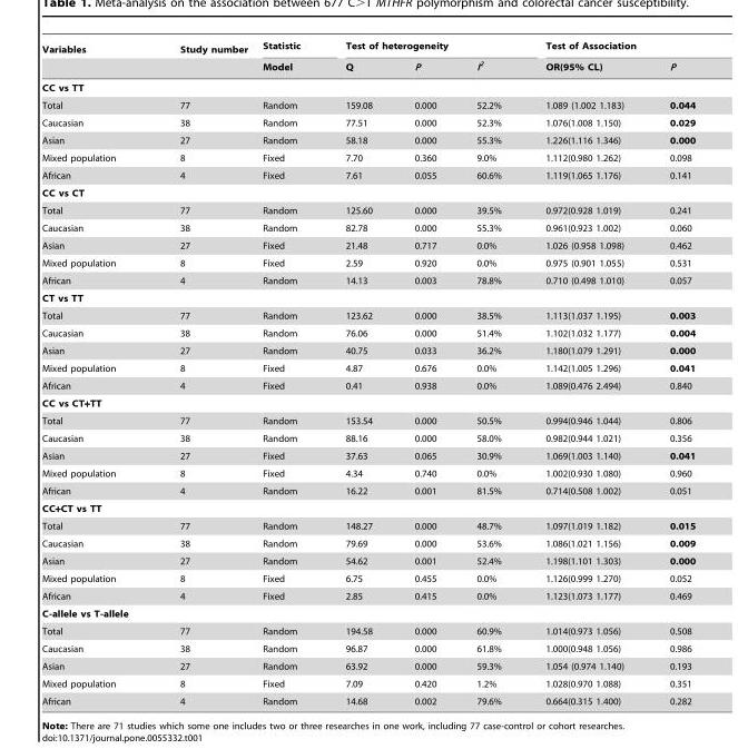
<table><thead><tr><td rowspan="2">Variables</td><td rowspan="2">Study number</td><td rowspan="2">Statistic Model</td><td colspan="3">Test of heterogeneity</td><td colspan="2">Test of Association</td></tr><tr><td>Q</td><td>P</td><td>I<sup>2</sup></td><td>OR(95% CL)</td><td>P</td></tr></thead><tbody><tr><td colspan="8">CC vs TT</td></tr><tr><td>Total</td><td>77</td><td>Random</td><td>159.08</td><td>0.000</td><td>52.2%</td><td>1.089 (1.002 1.183)</td><td>0.044</td></tr><tr><td>Caucasian</td><td>38</td><td>Random</td><td>77.51</td><td>0.000</td><td>52.3%</td><td>1.076(1.008 1.150)</td><td>0.029</td></tr><tr><td>Asian</td><td>27</td><td>Random</td><td>58.18</td><td>0.000</td><td>55.3%</td><td>1.226(1.116 1.346)</td><td>0.000</td></tr><tr><td>Mixed population</td><td>8</td><td>Fixed</td><td>7.70</td><td>0.360</td><td>9.0%</td><td>1.112(0.980 1.262)</td><td>0.098</td></tr><tr><td>African</td><td>4</td><td>Fixed</td><td>7.61</td><td>0.055</td><td>60.6%</td><td>1.119(1.065 1.176)</td><td>0.141</td></tr><tr><td colspan="8">CC vs CT</td></tr><tr><td>Total</td><td>77</td><td>Random</td><td>125.60</td><td>0.000</td><td>39.5%</td><td>0.972(0.928 1.019)</td><td>0.241</td></tr><tr><td>Caucasian</td><td>38</td><td>Random</td><td>82.78</td><td>0.000</td><td>55.3%</td><td>0.961(0.923 1.002)</td><td>0.060</td></tr><tr><td>Asian</td><td>27</td><td>Fixed</td><td>21.48</td><td>0.717</td><td>0.0%</td><td>1.026 (0.958 1.098)</td><td>0.462</td></tr><tr><td>Mixed population</td><td>8</td><td>Fixed</td><td>2.59</td><td>0.920</td><td>0.0%</td><td>0.975 (0.901 1.055)</td><td>0.531</td></tr><tr><td>African</td><td>4</td><td>Random</td><td>14.13</td><td>0.003</td><td>78.8%</td><td>0.710 (0.498 1.010)</td><td>0.057</td></tr><tr><td colspan="8">CT vs TT</td></tr><tr><td>Total</td><td>77</td><td>Random</td><td>123.62</td><td>0.000</td><td>38.5%</td><td>1.113(1.037 1.195)</td><td>0.003</td></tr><tr><td>Caucasian</td><td>38</td><td>Random</td><td>76.06</td><td>0.000</td><td>51.4%</td><td>1.102(1.032 1.177)</td><td>0.004</td></tr><tr><td>Asian</td><td>27</td><td>Random</td><td>40.75</td><td>0.033</td><td>36.2%</td><td>1.180(1.079 1.291)</td><td>0.000</td></tr><tr><td>Mixed population</td><td>8</td><td>Fixed</td><td>4.87</td><td>0.676</td><td>0.0%</td><td>1.142(1.005 1.296)</td><td>0.041</td></tr><tr><td>African</td><td>4</td><td>Fixed</td><td>0.41</td><td>0.938</td><td>0.0%</td><td>1.089(0.476 2.494)</td><td>0.840</td></tr><tr><td colspan="8">CC vs CT+TT</td></tr><tr><td>Total</td><td>77</td><td>Random</td><td>153.54</td><td>0.000</td><td>50.5%</td><td>0.994(0.946 1.044)</td><td>0.806</td></tr><tr><td>Caucasian</td><td>38</td><td>Random</td><td>88.16</td><td>0.000</td><td>58.0%</td><td>0.982(0.944 1.021)</td><td>0.356</td></tr><tr><td>Asian</td><td>27</td><td>Fixed</td><td>37.63</td><td>0.065</td><td>30.9%</td><td>1.069(1.003 1.140)</td><td>0.041</td></tr><tr><td>Mixed population</td><td>8</td><td>Fixed</td><td>4.34</td><td>0.740</td><td>0.0%</td><td>1.002(0.930 1.080)</td><td>0.960</td></tr><tr><td>African</td><td>4</td><td>Random</td><td>16.22</td><td>0.001</td><td>81.5%</td><td>0.714(0.508 1.002)</td><td>0.051</td></tr><tr><td colspan="8">CC+CT vs TT</td></tr><tr><td>Total</td><td>77</td><td>Random</td><td>148.27</td><td>0.000</td><td>48.7%</td><td>1.097(1.019 1.182)</td><td>0.015</td></tr><tr><td>Caucasian</td><td>38</td><td>Random</td><td>79.69</td><td>0.000</td><td>53.6%</td><td>1.086(1.021 1.156)</td><td>0.009</td></tr><tr><td>Asian</td><td>27</td><td>Random</td><td>54.62</td><td>0.001</td><td>52.4%</td><td>1.198(1.101 1.303)</td><td>0.000</td></tr><tr><td>Mixed population</td><td>8</td><td>Fixed</td><td>6.75</td><td>0.455</td><td>0.0%</td><td>1.126(0.999 1.270)</td><td>0.052</td></tr><tr><td>African</td><td>4</td><td>Fixed</td><td>2.85</td><td>0.415</td><td>0.0%</td><td>1.123(1.073 1.177)</td><td>0.469</td></tr><tr><td colspan="8">C-allele vs T-allele</td></tr><tr><td>Total</td><td>77</td><td>Random</td><td>194.58</td><td>0.000</td><td>60.9%</td><td>1.014(0.973 1.056)</td><td>0.508</td></tr><tr><td>Caucasian</td><td>38</td><td>Random</td><td>96.87</td><td>0.000</td><td>61.8%</td><td>1.000(0.948 1.056)</td><td>0.986</td></tr><tr><td>Asian</td><td>27</td><td>Random</td><td>63.92</td><td>0.000</td><td>59.3%</td><td>1.054 (0.974 1.140)</td><td>0.193</td></tr><tr><td>Mixed population</td><td>8</td><td>Fixed</td><td>7.09</td><td>0.420</td><td>1.2%</td><td>1.028(0.970 1.088)</td><td>0.351</td></tr><tr><td>African</td><td>4</td><td>Random</td><td>14.68</td><td>0.002</td><td>79.6%</td><td>0.664(0.315 1.400)</td><td>0.282</td></tr></tbody></table>